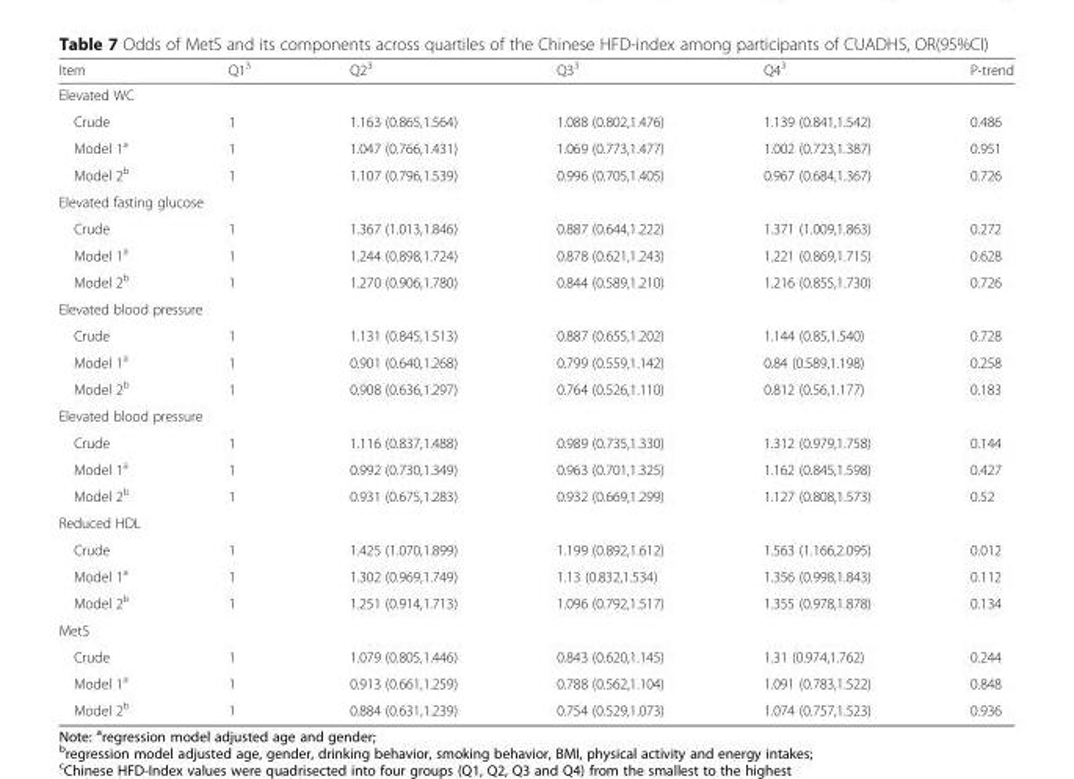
<table><thead><tr><td>Item</td><td>Q1<sup>3</sup></td><td>Q2<sup>3</sup></td><td>Q3<sup>3</sup></td><td>Q4<sup>3</sup></td><td>P-trend</td></tr></thead><tbody><tr><td colspan="6">Elevated WC</td></tr><tr><td>Crude</td><td>1</td><td>1.163 (0.865,1.564)</td><td>1.088 (0.802,1.476)</td><td>1.139 (0.841,1.542)</td><td>0.486</td></tr><tr><td>Model 1<sup>a</sup></td><td>1</td><td>1.047 (0.766,1.431)</td><td>1.069 (0.773,1.477)</td><td>1.002 (0.723,1.387)</td><td>0.951</td></tr><tr><td>Model 2<sup>b</sup></td><td>1</td><td>1.107 (0.796,1.539)</td><td>0.996 (0.705,1.405)</td><td>0.967 (0.684,1.367)</td><td>0.726</td></tr><tr><td colspan="6">Elevated fasting glucose</td></tr><tr><td>Crude</td><td>1</td><td>1.367 (1.013,1.846)</td><td>0.887 (0.644,1.222)</td><td>1.371 (1.009,1.863)</td><td>0.272</td></tr><tr><td>Model 1<sup>a</sup></td><td>1</td><td>1.244 (0.898,1.724)</td><td>0.878 (0.621,1.243)</td><td>1.221 (0.869,1.715)</td><td>0.628</td></tr><tr><td>Model 2<sup>b</sup></td><td>1</td><td>1.270 (0.906,1.780)</td><td>0.844 (0.589,1.210)</td><td>1.216 (0.855,1.730)</td><td>0.726</td></tr><tr><td colspan="6">Elevated blood pressure</td></tr><tr><td>Crude</td><td>1</td><td>1.131 (0.845,1.513)</td><td>0.887 (0.655,1.202)</td><td>1.144 (0.85,1.540)</td><td>0.728</td></tr><tr><td>Model 1<sup>a</sup></td><td>1</td><td>0.901 (0.640,1.268)</td><td>0.799 (0.559,1.142)</td><td>0.84 (0.589,1.198)</td><td>0.258</td></tr><tr><td>Model 2<sup>b</sup></td><td>1</td><td>0.908 (0.636,1.297)</td><td>0.764 (0.526,1.110)</td><td>0.812 (0.56,1.177)</td><td>0.183</td></tr><tr><td colspan="6">Elevated blood pressure</td></tr><tr><td>Crude</td><td>1</td><td>1.116 (0.837,1.488)</td><td>0.989 (0.735,1.330)</td><td>1.312 (0.979,1.758)</td><td>0.144</td></tr><tr><td>Model 1<sup>a</sup></td><td>1</td><td>0.992 (0.730,1.349)</td><td>0.963 (0.701,1.325)</td><td>1.162 (0.845,1.598)</td><td>0.427</td></tr><tr><td>Model 2<sup>b</sup></td><td>1</td><td>0.931 (0.675,1.283)</td><td>0.932 (0.669,1.299)</td><td>1.127 (0.808,1.573)</td><td>0.52</td></tr><tr><td colspan="6">Reduced HDL</td></tr><tr><td>Crude</td><td>1</td><td>1.425 (1.070,1.899)</td><td>1.199 (0.892,1.612)</td><td>1.563 (1.166,2.095)</td><td>0.012</td></tr><tr><td>Model 1<sup>a</sup></td><td>1</td><td>1.302 (0.969,1.749)</td><td>1.13 (0.832,1.534)</td><td>1.356 (0.998,1.843)</td><td>0.112</td></tr><tr><td>Model 2<sup>b</sup></td><td>1</td><td>1.251 (0.914,1.713)</td><td>1.096 (0.792,1.517)</td><td>1.355 (0.978,1.878)</td><td>0.134</td></tr><tr><td colspan="6">MetS</td></tr><tr><td>Crude</td><td>1</td><td>1.079 (0.805,1.446)</td><td>0.843 (0.620,1.145)</td><td>1.31 (0.974,1.762)</td><td>0.244</td></tr><tr><td>Model 1<sup>a</sup></td><td>1</td><td>0.913 (0.661,1.259)</td><td>0.788 (0.562,1.104)</td><td>1.091 (0.783,1.522)</td><td>0.848</td></tr><tr><td>Model 2<sup>b</sup></td><td>1</td><td>0.884 (0.631,1.239)</td><td>0.754 (0.529,1.073)</td><td>1.074 (0.757,1.523)</td><td>0.936</td></tr></tbody></table>